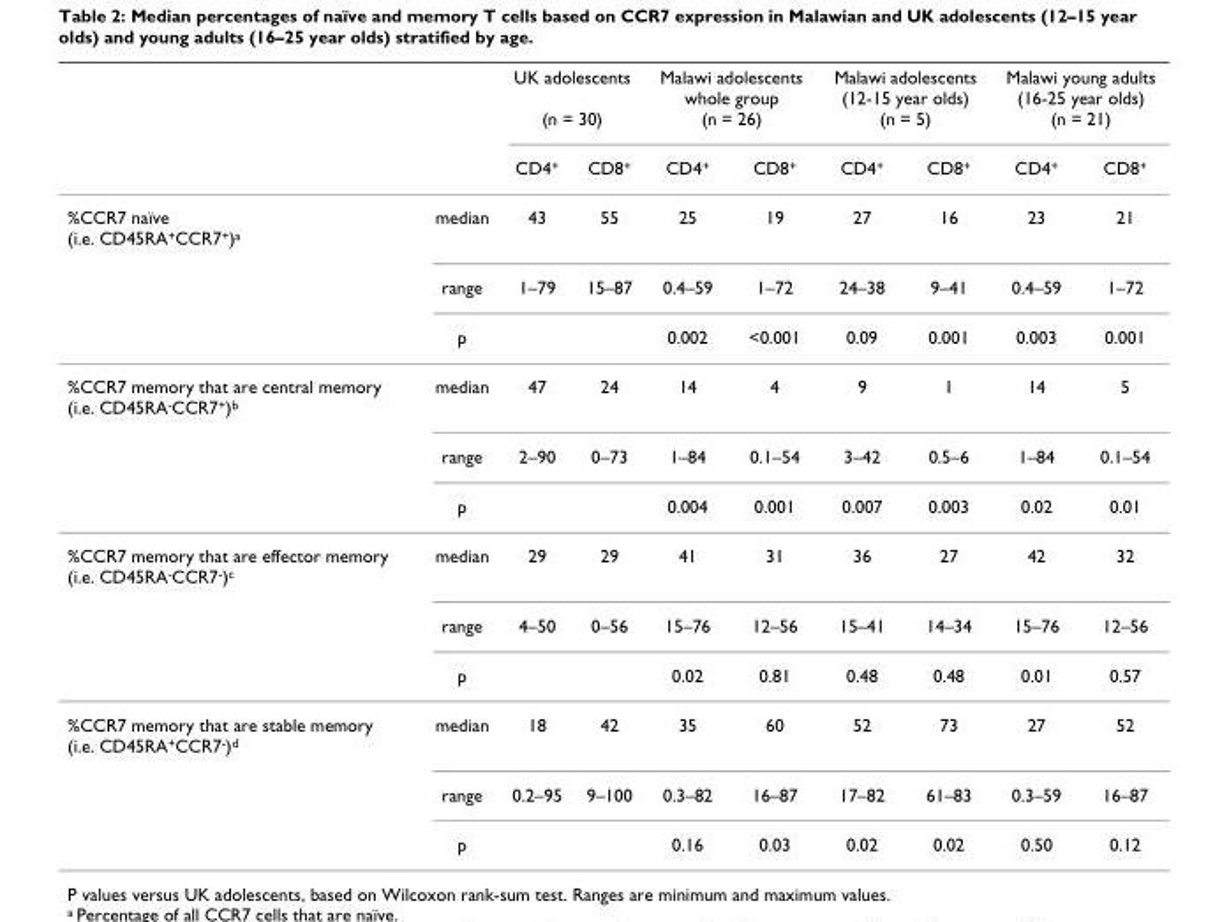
<table><thead><tr><td rowspan="2"></td><td rowspan="2"></td><td colspan="2">UK adolescents (n = 30)</td><td colspan="2">Malawi adolescents whole group (n = 26)</td><td colspan="2">Malawi adolescents (12-15 year olds) (n = 5)</td><td colspan="2">Malawi young adults (16-25 year olds) (n = 21)</td></tr><tr><td>CD4<sup>+</sup></td><td>CD8<sup>+</sup></td><td>CD4<sup>+</sup></td><td>CD8<sup>+</sup></td><td>CD4<sup>+</sup></td><td>CD8<sup>+</sup></td><td>CD4<sup>+</sup></td><td>CD8<sup>+</sup></td></tr></thead><tbody><tr><td rowspan="3">%CCR7 naïve (i.e. CD45RA<sup>+</sup>CCR7<sup>+</sup>)<sup>a</sup></td><td>median</td><td>43</td><td>55</td><td>25</td><td>19</td><td>27</td><td>16</td><td>23</td><td>21</td></tr><tr><td>range</td><td>1–79</td><td>15–87</td><td>0.4–59</td><td>1–72</td><td>24–38</td><td>9–41</td><td>0.4–59</td><td>1–72</td></tr><tr><td>p</td><td></td><td></td><td>0.002</td><td>&lt;0.001</td><td>0.09</td><td>0.001</td><td>0.003</td><td>0.001</td></tr><tr><td rowspan="3">%CCR7 memory that are central memory (i.e. CD45RA<sup>-</sup>CCR7<sup>+</sup>)<sup>b</sup></td><td>median</td><td>47</td><td>24</td><td>14</td><td>4</td><td>9</td><td>1</td><td>14</td><td>5</td></tr><tr><td>range</td><td>2–90</td><td>0–73</td><td>1–84</td><td>0.1–54</td><td>3–42</td><td>0.5–6</td><td>1–84</td><td>0.1–54</td></tr><tr><td>p</td><td></td><td></td><td>0.004</td><td>0.001</td><td>0.007</td><td>0.003</td><td>0.02</td><td>0.01</td></tr><tr><td rowspan="3">%CCR7 memory that are effector memory (i.e. CD45RA<sup>-</sup>CCR7<sup>-</sup>)<sup>c</sup></td><td>median</td><td>29</td><td>29</td><td>41</td><td>31</td><td>36</td><td>27</td><td>42</td><td>32</td></tr><tr><td>range</td><td>4–50</td><td>0–56</td><td>15–76</td><td>12–56</td><td>15–41</td><td>14–34</td><td>15–76</td><td>12–56</td></tr><tr><td>p</td><td></td><td></td><td>0.02</td><td>0.81</td><td>0.48</td><td>0.48</td><td>0.01</td><td>0.57</td></tr><tr><td rowspan="3">%CCR7 memory that are stable memory (i.e. CD45RA<sup>+</sup>CCR7<sup>-</sup>)<sup>d</sup></td><td>median</td><td>18</td><td>42</td><td>35</td><td>60</td><td>52</td><td>73</td><td>27</td><td>52</td></tr><tr><td>range</td><td>0.2–95</td><td>9–100</td><td>0.3–82</td><td>16–87</td><td>17–82</td><td>61–83</td><td>0.3–59</td><td>16–87</td></tr><tr><td>p</td><td></td><td></td><td>0.16</td><td>0.03</td><td>0.02</td><td>0.02</td><td>0.50</td><td>0.12</td></tr></tbody></table>